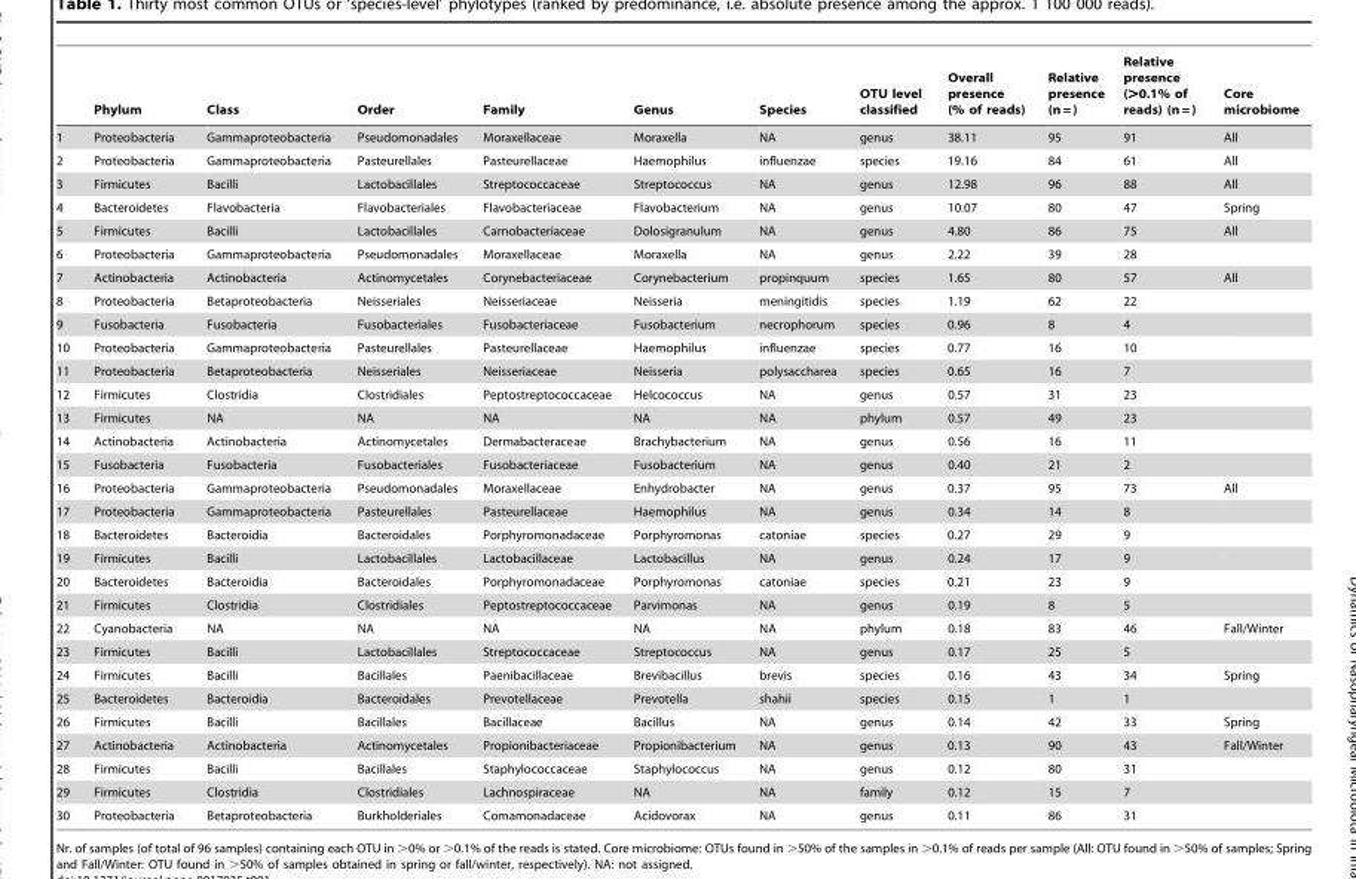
<table><thead><tr><td></td><td>Phylum</td><td>Class</td><td>Order</td><td>Family</td><td>Genus</td><td>Species</td><td>OTU level classified</td><td>Overall presence (% of reads)</td><td>Relative presence (n = )</td><td>Relative presence (&gt;0.1% of reads) (n = )</td><td>Core microbiome</td></tr></thead><tbody><tr><td>1</td><td>Proteobacteria</td><td>Gammaproteobacteria</td><td>Pseudomonadales</td><td>Moraxellaceae</td><td>Moraxella</td><td>NA</td><td>genus</td><td>38.11</td><td>95</td><td>91</td><td>All</td></tr><tr><td>2</td><td>Proteobacteria</td><td>Gammaproteobacteria</td><td>Pasteurellales</td><td>Pasteurellaceae</td><td>Haemophilus</td><td>influenzae</td><td>species</td><td>19.16</td><td>84</td><td>61</td><td>All</td></tr><tr><td>3</td><td>Firmicutes</td><td>Bacilli</td><td>Lactobacillales</td><td>Streptococcaceae</td><td>Streptococcus</td><td>NA</td><td>genus</td><td>12.98</td><td>96</td><td>88</td><td>All</td></tr><tr><td>4</td><td>Bacteroidetes</td><td>Flavobacteria</td><td>Flavobacteriales</td><td>Flavobacteriaceae</td><td>Flavobacterium</td><td>NA</td><td>genus</td><td>10.07</td><td>80</td><td>47</td><td>Spring</td></tr><tr><td>5</td><td>Firmicutes</td><td>Bacilli</td><td>Lactobacillales</td><td>Carnobacteriaceae</td><td>Dolosigranulum</td><td>NA</td><td>genus</td><td>4.80</td><td>86</td><td>75</td><td>All</td></tr><tr><td>6</td><td>Proteobacteria</td><td>Gammaproteobacteria</td><td>Pseudomonadales</td><td>Moraxellaceae</td><td>Moraxella</td><td>NA</td><td>genus</td><td>2.22</td><td>39</td><td>28</td><td></td></tr><tr><td>7</td><td>Actinobacteria</td><td>Actinobacteria</td><td>Actinomycetales</td><td>Corynebacteriaceae</td><td>Corynebacterium</td><td>propinquum</td><td>species</td><td>1.65</td><td>80</td><td>57</td><td>All</td></tr><tr><td>8</td><td>Proteobacteria</td><td>Betaproteobacteria</td><td>Neisseriales</td><td>Neisseriaceae</td><td>Neisseria</td><td>meningitidis</td><td>species</td><td>1.19</td><td>62</td><td>22</td><td></td></tr><tr><td>9</td><td>Fusobacteria</td><td>Fusobacteria</td><td>Fusobacteriales</td><td>Fusobacteriaceae</td><td>Fusobacterium</td><td>necrophorum</td><td>species</td><td>0.96</td><td>8</td><td>4</td><td></td></tr><tr><td>10</td><td>Proteobacteria</td><td>Gammaproteobacteria</td><td>Pasteurellales</td><td>Pasteurellaceae</td><td>Haemophilus</td><td>influenzae</td><td>species</td><td>0.77</td><td>16</td><td>10</td><td></td></tr><tr><td>11</td><td>Proteobacteria</td><td>Betaproteobacteria</td><td>Neisseriales</td><td>Neisseriaceae</td><td>Neisseria</td><td>polysaccharea</td><td>species</td><td>0.65</td><td>16</td><td>7</td><td></td></tr><tr><td>12</td><td>Firmicutes</td><td>Clostridia</td><td>Clostridiales</td><td>Peptostreptococcaceae</td><td>Helcococcus</td><td>NA</td><td>genus</td><td>0.57</td><td>31</td><td>23</td><td></td></tr><tr><td>13</td><td>Firmicutes</td><td>NA</td><td>NA</td><td>NA</td><td>NA</td><td>NA</td><td>phylum</td><td>0.57</td><td>49</td><td>23</td><td></td></tr><tr><td>14</td><td>Actinobacteria</td><td>Actinobacteria</td><td>Actinomycetales</td><td>Dermabacteraceae</td><td>Brachybacterium</td><td>NA</td><td>genus</td><td>0.56</td><td>16</td><td>11</td><td></td></tr><tr><td>15</td><td>Fusobacteria</td><td>Fusobacteria</td><td>Fusobacteriales</td><td>Fusobacteriaceae</td><td>Fusobacterium</td><td>NA</td><td>genus</td><td>0.40</td><td>21</td><td>2</td><td></td></tr><tr><td>16</td><td>Proteobacteria</td><td>Gammaproteobacteria</td><td>Pseudomonadales</td><td>Moraxellaceae</td><td>Enhydrobacter</td><td>NA</td><td>genus</td><td>0.37</td><td>95</td><td>73</td><td>All</td></tr><tr><td>17</td><td>Proteobacteria</td><td>Gammaproteobacteria</td><td>Pasteurellales</td><td>Pasteurellaceae</td><td>Haemophilus</td><td>NA</td><td>genus</td><td>0.34</td><td>14</td><td>8</td><td></td></tr><tr><td>18</td><td>Bacteroidetes</td><td>Bacteroidia</td><td>Bacteroidales</td><td>Porphyromonadaceae</td><td>Porphyromonas</td><td>catoniae</td><td>species</td><td>0.27</td><td>29</td><td>9</td><td></td></tr><tr><td>19</td><td>Firmicutes</td><td>Bacilli</td><td>Lactobacillales</td><td>Lactobacillaceae</td><td>Lactobacillus</td><td>NA</td><td>genus</td><td>0.24</td><td>17</td><td>9</td><td></td></tr><tr><td>20</td><td>Bacteroidetes</td><td>Bacteroidia</td><td>Bacteroidales</td><td>Porphyromonadaceae</td><td>Porphyromonas</td><td>catoniae</td><td>species</td><td>0.21</td><td>23</td><td>9</td><td></td></tr><tr><td>21</td><td>Firmicutes</td><td>Clostridia</td><td>Clostridiales</td><td>Peptostreptococcaceae</td><td>Parvimonas</td><td>NA</td><td>genus</td><td>0.19</td><td>8</td><td>5</td><td></td></tr><tr><td>22</td><td>Cyanobacteria</td><td>NA</td><td>NA</td><td>NA</td><td>NA</td><td>NA</td><td>phylum</td><td>0.18</td><td>83</td><td>46</td><td>Fall/Winter</td></tr><tr><td>23</td><td>Firmicutes</td><td>Bacilli</td><td>Lactobacillales</td><td>Streptococcaceae</td><td>Streptococcus</td><td>NA</td><td>genus</td><td>0.17</td><td>25</td><td>5</td><td></td></tr><tr><td>24</td><td>Firmicutes</td><td>Bacilli</td><td>Bacillales</td><td>Paenibacillaceae</td><td>Brevibacillus</td><td>brevis</td><td>species</td><td>0.16</td><td>43</td><td>34</td><td>Spring</td></tr><tr><td>25</td><td>Bacteroidetes</td><td>Bacteroidia</td><td>Bacteroidales</td><td>Prevotellaceae</td><td>Prevotella</td><td>shahii</td><td>species</td><td>0.15</td><td>1</td><td>1</td><td></td></tr><tr><td>26</td><td>Firmicutes</td><td>Bacilli</td><td>Bacillales</td><td>Bacillaceae</td><td>Bacillus</td><td>NA</td><td>genus</td><td>0.14</td><td>42</td><td>33</td><td>Spring</td></tr><tr><td>27</td><td>Actinobacteria</td><td>Actinobacteria</td><td>Actinomycetales</td><td>Propionibacteriaceae</td><td>Propionibacterium</td><td>NA</td><td>genus</td><td>0.13</td><td>90</td><td>43</td><td>Fall/Winter</td></tr><tr><td>28</td><td>Firmicutes</td><td>Bacilli</td><td>Bacillales</td><td>Staphylococcaceae</td><td>Staphylococcus</td><td>NA</td><td>genus</td><td>0.12</td><td>80</td><td>31</td><td></td></tr><tr><td>29</td><td>Firmicutes</td><td>Clostridia</td><td>Clostridiales</td><td>Lachnospiraceae</td><td>NA</td><td>NA</td><td>family</td><td>0.12</td><td>15</td><td>7</td><td></td></tr><tr><td>30</td><td>Proteobacteria</td><td>Betaproteobacteria</td><td>Burkholderiales</td><td>Comamonadaceae</td><td>Acidovorax</td><td>NA</td><td>genus</td><td>0.11</td><td>86</td><td>31</td><td></td></tr></tbody></table>